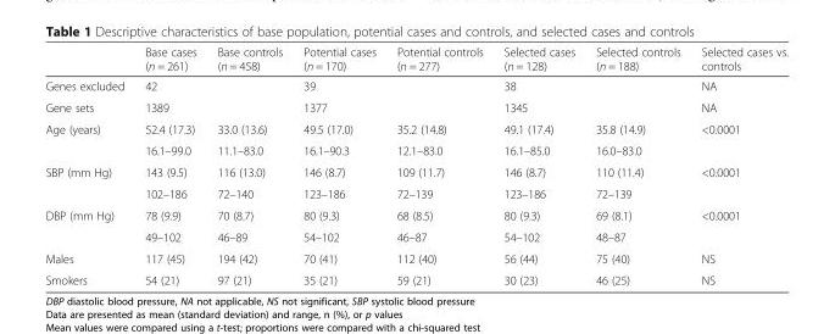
<table><thead><tr><td></td><td>Base cases (n = 261)</td><td>Base controls (n = 458)</td><td>Potential cases (n = 170)</td><td>Potential controls (n = 277)</td><td>Selected cases (n = 128)</td><td>Selected controls (n = 188)</td><td>Selected cases vs. controls</td></tr></thead><tbody><tr><td>Genes excluded</td><td colspan="2">42</td><td colspan="2">39</td><td colspan="2">38</td><td>NA</td></tr><tr><td>Gene sets</td><td colspan="2">1389</td><td colspan="2">1377</td><td colspan="2">1345</td><td>NA</td></tr><tr><td rowspan="2">Age (years)</td><td>52.4 (17.3)</td><td>33.0 (13.6)</td><td>49.5 (17.0)</td><td>35.2 (14.8)</td><td>49.1 (17.4)</td><td>35.8 (14.9)</td><td rowspan="2">&lt;0.0001</td></tr><tr><td>16.1–99.0</td><td>11.1–83.0</td><td>16.1–90.3</td><td>12.1–83.0</td><td>16.1–85.0</td><td>16.0–83.0</td></tr><tr><td rowspan="2">SBP (mm Hg)</td><td>143 (9.5)</td><td>116 (13.0)</td><td>146 (8.7)</td><td>109 (11.7)</td><td>146 (8.7)</td><td>110 (11.4)</td><td rowspan="2">&lt;0.0001</td></tr><tr><td>102–186</td><td>72–140</td><td>123–186</td><td>72–139</td><td>123–186</td><td>72–139</td></tr><tr><td rowspan="2">DBP (mm Hg)</td><td>78 (9.9)</td><td>70 (8.7)</td><td>80 (9.3)</td><td>68 (8.5)</td><td>80 (9.3)</td><td>69 (8.1)</td><td rowspan="2">&lt;0.0001</td></tr><tr><td>49–102</td><td>46–89</td><td>54–102</td><td>46–87</td><td>54–102</td><td>48–87</td></tr><tr><td>Males</td><td>117 (45)</td><td>194 (42)</td><td>70 (41)</td><td>112 (40)</td><td>56 (44)</td><td>75 (40)</td><td>NS</td></tr><tr><td>Smokers</td><td>54 (21)</td><td>97 (21)</td><td>35 (21)</td><td>59 (21)</td><td>30 (23)</td><td>46 (25)</td><td>NS</td></tr></tbody></table>